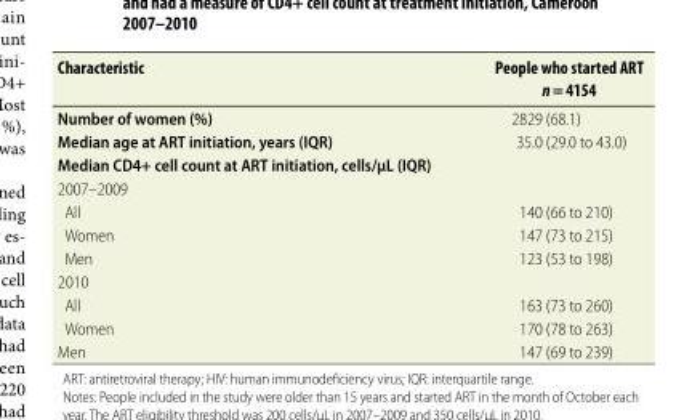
<table><thead><tr><td>Characteristic</td><td>People who started ART n = 4154</td></tr></thead><tbody><tr><td>Number of women (%)</td><td>2829 (68.1)</td></tr><tr><td>Median age at ART initiation, years (IQR)</td><td>35.0 (29.0 to 43.0)</td></tr><tr><td colspan="2">Median CD4+ cell count at ART initiation, cells/μL (IQR)</td></tr><tr><td colspan="2">2007–2009</td></tr><tr><td>All</td><td>140 (66 to 210)</td></tr><tr><td>Women</td><td>147 (73 to 215)</td></tr><tr><td>Men</td><td>123 (53 to 198)</td></tr><tr><td colspan="2">2010</td></tr><tr><td>All</td><td>163 (73 to 260)</td></tr><tr><td>Women</td><td>170 (78 to 263)</td></tr><tr><td>Men</td><td>147 (69 to 239)</td></tr></tbody></table>